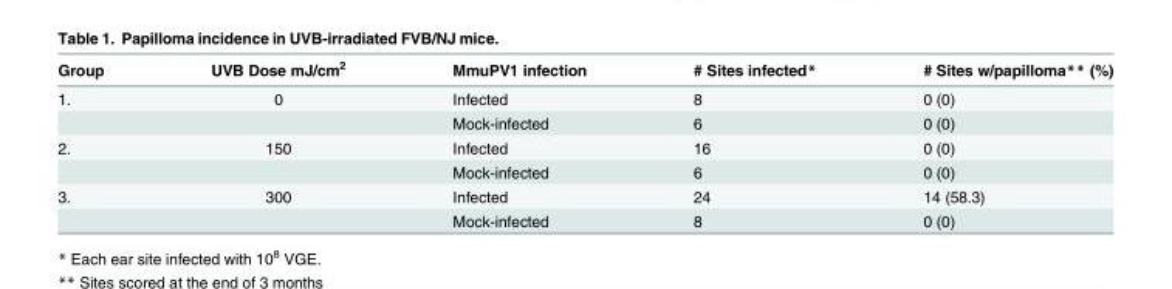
<table><thead><tr><td>Group</td><td>UVB Dose mJ/cm<sup>2</sup></td><td>MmuPV1 infection</td><td># Sites infected*</td><td># Sites w/papilloma** (%)</td></tr></thead><tbody><tr><td rowspan="2">1.</td><td>0</td><td>Infected</td><td>8</td><td>0 (0)</td></tr><tr><td></td><td>Mock-infected</td><td>6</td><td>0 (0)</td></tr><tr><td rowspan="2">2.</td><td>150</td><td>Infected</td><td>16</td><td>0 (0)</td></tr><tr><td></td><td>Mock-infected</td><td>6</td><td>0 (0)</td></tr><tr><td rowspan="2">3.</td><td>300</td><td>Infected</td><td>24</td><td>14 (58.3)</td></tr><tr><td></td><td>Mock-infected</td><td>8</td><td>0 (0)</td></tr></tbody></table>